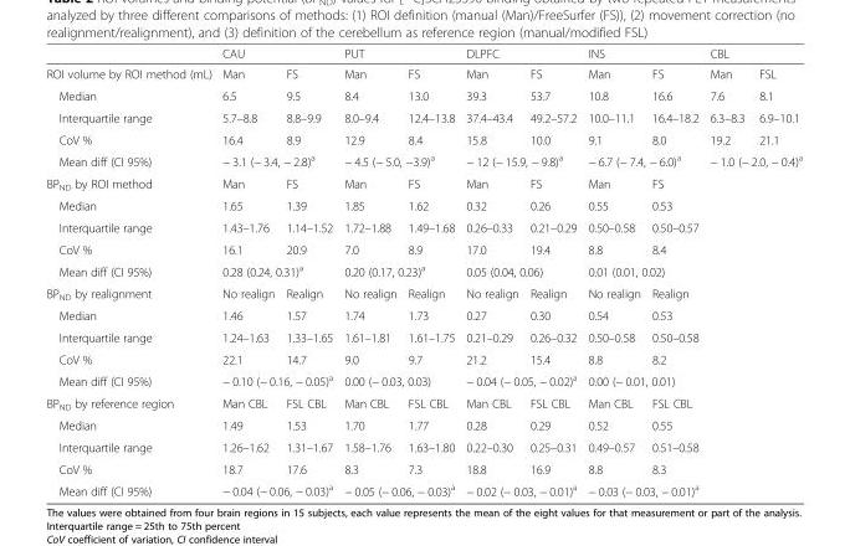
<table><thead><tr><td rowspan="2">ROI volume by ROI method (mL)</td><td colspan="2">CAU</td><td colspan="2">PUT</td><td colspan="2">DLPFC</td><td colspan="2">INS</td><td colspan="2">CBL</td></tr><tr><td>Man</td><td>FS</td><td>Man</td><td>FS</td><td>Man</td><td>FS</td><td>Man</td><td>FS</td><td>Man</td><td>FSL</td></tr></thead><tbody><tr><td>Median</td><td>6.5</td><td>9.5</td><td>8.4</td><td>13.0</td><td>39.3</td><td>53.7</td><td>10.8</td><td>16.6</td><td>7.6</td><td>8.1</td></tr><tr><td>Interquartile range</td><td>5.7–8.8</td><td>8.8–9.9</td><td>8.0–9.4</td><td>12.4–13.8</td><td>37.4–43.4</td><td>49.2–57.2</td><td>10.0–11.1</td><td>16.4–18.2</td><td>6.3–8.3</td><td>6.9–10.1</td></tr><tr><td>CoV %</td><td>16.4</td><td>8.9</td><td>12.9</td><td>8.4</td><td>15.8</td><td>10.0</td><td>9.1</td><td>8.0</td><td>19.2</td><td>21.1</td></tr><tr><td>Mean diff (CI 95%)</td><td colspan="2">− 3.1 (− 3.4, − 2.8)<sup>a</sup></td><td colspan="2">− 4.5 (− 5.0, −3.9)<sup>a</sup></td><td colspan="2">− 12 (− 15.9, − 9.8)<sup>a</sup></td><td colspan="2">− 6.7 (− 7.4, − 6.0)<sup>a</sup></td><td colspan="2">− 1.0 (− 2.0, − 0.4)<sup>a</sup></td></tr><tr><td>BP<sub>ND</sub> by ROI method</td><td>Man</td><td>FS</td><td>Man</td><td>FS</td><td>Man</td><td>FS</td><td>Man</td><td>FS</td><td></td><td></td></tr><tr><td>Median</td><td>1.65</td><td>1.39</td><td>1.85</td><td>1.62</td><td>0.32</td><td>0.26</td><td>0.55</td><td>0.53</td><td></td><td></td></tr><tr><td>Interquartile range</td><td>1.43–1.76</td><td>1.14–1.52</td><td>1.72–1.88</td><td>1.49–1.68</td><td>0.26–0.33</td><td>0.21–0.29</td><td>0.50–0.58</td><td>0.50–0.57</td><td></td><td></td></tr><tr><td>CoV %</td><td>16.1</td><td>20.9</td><td>7.0</td><td>8.9</td><td>17.0</td><td>19.4</td><td>8.8</td><td>8.4</td><td></td><td></td></tr><tr><td>Mean diff (CI 95%)</td><td colspan="2">0.28 (0.24, 0.31)<sup>a</sup></td><td colspan="2">0.20 (0.17, 0.23)<sup>a</sup></td><td colspan="2">0.05 (0.04, 0.06)</td><td colspan="2">0.01 (0.01, 0.02)</td><td></td><td></td></tr><tr><td>BP<sub>ND</sub> by realignment</td><td>No realign</td><td>Realign</td><td>No realign</td><td>Realign</td><td>No realign</td><td>Realign</td><td>No realign</td><td>Realign</td><td></td><td></td></tr><tr><td>Median</td><td>1.46</td><td>1.57</td><td>1.74</td><td>1.73</td><td>0.27</td><td>0.30</td><td>0.54</td><td>0.53</td><td></td><td></td></tr><tr><td>Interquartile range</td><td>1.24–1.63</td><td>1.33–1.65</td><td>1.61–1.81</td><td>1.61–1.75</td><td>0.21–0.29</td><td>0.26–0.32</td><td>0.50–0.58</td><td>0.50–0.58</td><td></td><td></td></tr><tr><td>CoV %</td><td>22.1</td><td>14.7</td><td>9.0</td><td>9.7</td><td>21.2</td><td>15.4</td><td>8.8</td><td>8.2</td><td></td><td></td></tr><tr><td>Mean diff (CI 95%)</td><td colspan="2">− 0.10 (− 0.16, − 0.05)<sup>a</sup></td><td colspan="2">0.00 (− 0.03, 0.03)</td><td colspan="2">− 0.04 (− 0.05, − 0.02)<sup>a</sup></td><td colspan="2">0.00 (− 0.01, 0.01)</td><td></td><td></td></tr><tr><td>BP<sub>ND</sub> by reference region</td><td>Man CBL</td><td>FSL CBL</td><td>Man CBL</td><td>FSL CBL</td><td>Man CBL</td><td>FSL CBL</td><td>Man CBL</td><td>FSL CBL</td><td></td><td></td></tr><tr><td>Median</td><td>1.49</td><td>1.53</td><td>1.70</td><td>1.77</td><td>0.28</td><td>0.29</td><td>0.52</td><td>0.55</td><td></td><td></td></tr><tr><td>Interquartile range</td><td>1.26–1.62</td><td>1.31–1.67</td><td>1.58–1.76</td><td>1.63–1.80</td><td>0.22–0.30</td><td>0.25–0.31</td><td>0.49–0.57</td><td>0.51–0.58</td><td></td><td></td></tr><tr><td>CoV %</td><td>18.7</td><td>17.6</td><td>8.3</td><td>7.3</td><td>18.8</td><td>16.9</td><td>8.8</td><td>8.3</td><td></td><td></td></tr><tr><td>Mean diff (CI 95%)</td><td colspan="2">− 0.04 (− 0.06, − 0.03)<sup>a</sup></td><td colspan="2">− 0.05 (− 0.06, − 0.03)<sup>a</sup></td><td colspan="2">− 0.02 (− 0.03, − 0.01)<sup>a</sup></td><td colspan="2">− 0.03 (− 0.03, − 0.01)<sup>a</sup></td><td></td><td></td></tr></tbody></table>